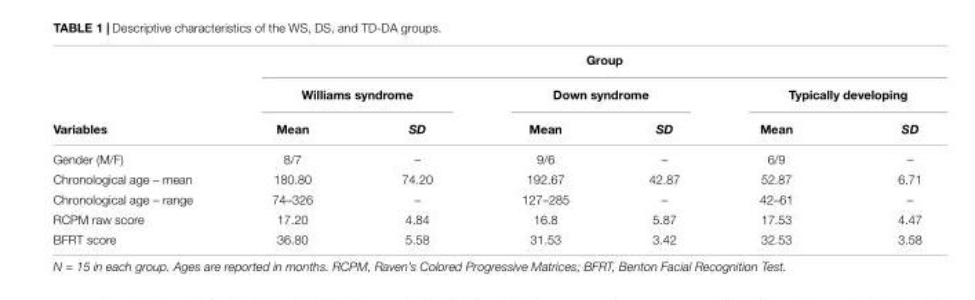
<table><thead><tr><td rowspan="3">Variables</td><td colspan="6">Group</td></tr><tr><td colspan="2">Williams syndrome</td><td colspan="2">Down syndrome</td><td colspan="2">Typically developing</td></tr><tr><td>Mean</td><td>SD</td><td>Mean</td><td>SD</td><td>Mean</td><td>SD</td></tr></thead><tbody><tr><td>Gender (M/F)</td><td>8/7</td><td>–</td><td>9/6</td><td>–</td><td>6/9</td><td>–</td></tr><tr><td>Chronological age – mean</td><td>180.80</td><td>74.20</td><td>192.67</td><td>42.87</td><td>52.87</td><td>6.71</td></tr><tr><td>Chronological age – range</td><td>74–326</td><td>–</td><td>127–285</td><td>–</td><td>42–61</td><td>–</td></tr><tr><td>RCPM raw score</td><td>17.20</td><td>4.84</td><td>16.8</td><td>5.87</td><td>17.53</td><td>4.47</td></tr><tr><td>BFRT score</td><td>36.80</td><td>5.58</td><td>31.53</td><td>3.42</td><td>32.53</td><td>3.58</td></tr></tbody></table>